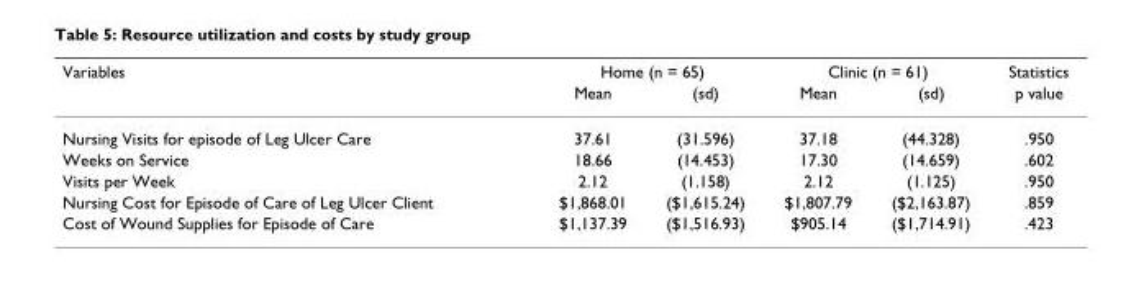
<table><thead><tr><td rowspan="2">Variables</td><td colspan="2">Home (n = 65)</td><td colspan="2">Clinic (n = 61)</td><td rowspan="2">Statistics p value</td></tr><tr><td>Mean</td><td>(sd)</td><td>Mean</td><td>(sd)</td></tr></thead><tbody><tr><td>Nursing Visits for episode of Leg Ulcer Care</td><td>37.61</td><td>(31.596)</td><td>37.18</td><td>(44.328)</td><td>.950</td></tr><tr><td>Weeks on Service</td><td>18.66</td><td>(14.453)</td><td>17.30</td><td>(14.659)</td><td>.602</td></tr><tr><td>Visits per Week</td><td>2.12</td><td>(1.158)</td><td>2.12</td><td>(1.125)</td><td>.950</td></tr><tr><td>Nursing Cost for Episode of Care of Leg Ulcer Client</td><td>$1,868.01</td><td>($1,615.24)</td><td>$1,807.79</td><td>($2,163.87)</td><td>.859</td></tr><tr><td>Cost of Wound Supplies for Episode of Care</td><td>$1,137.39</td><td>($1,516.93)</td><td>$905.14</td><td>($1,714.91)</td><td>.423</td></tr></tbody></table>